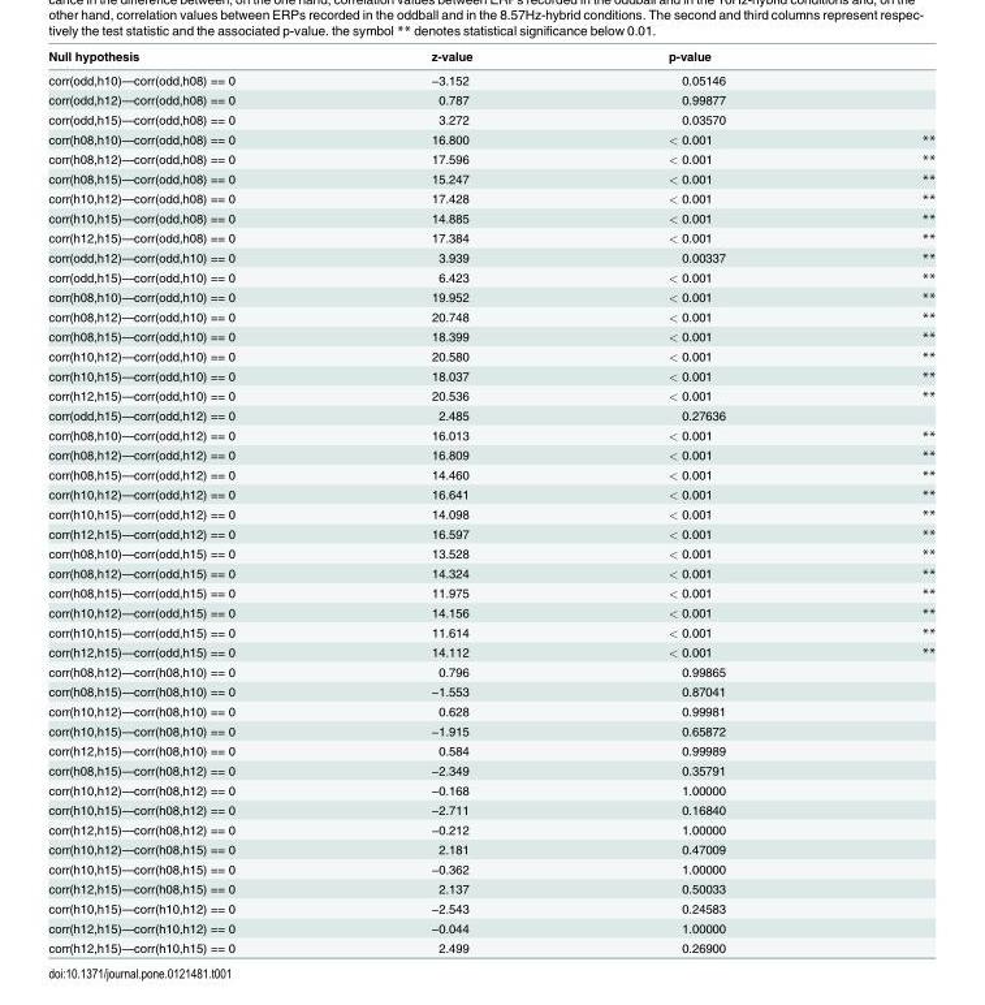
<table><thead><tr><td>Null hypothesis</td><td>z-value</td><td>p-value</td><td></td></tr></thead><tbody><tr><td>corr(odd,h10)—corr(odd,h08) == 0</td><td>−3.152</td><td>0.05146</td><td></td></tr><tr><td>corr(odd,h12)—corr(odd,h08) == 0</td><td>0.787</td><td>0.99877</td><td></td></tr><tr><td>corr(odd,h15)—corr(odd,h08) == 0</td><td>3.272</td><td>0.03570</td><td></td></tr><tr><td>corr(h08,h10)—corr(odd,h08) == 0</td><td>16.800</td><td>&lt; 0.001</td><td>**</td></tr><tr><td>corr(h08,h12)—corr(odd,h08) == 0</td><td>17.596</td><td>&lt; 0.001</td><td>**</td></tr><tr><td>corr(h08,h15)—corr(odd,h08) == 0</td><td>15.247</td><td>&lt; 0.001</td><td>**</td></tr><tr><td>corr(h10,h12)—corr(odd,h08) == 0</td><td>17.428</td><td>&lt; 0.001</td><td>**</td></tr><tr><td>corr(h10,h15)—corr(odd,h08) == 0</td><td>14.885</td><td>&lt; 0.001</td><td>**</td></tr><tr><td>corr(h12,h15)—corr(odd,h08) == 0</td><td>17.384</td><td>&lt; 0.001</td><td>**</td></tr><tr><td>corr(odd,h12)—corr(odd,h10) == 0</td><td>3.939</td><td>0.00337</td><td>**</td></tr><tr><td>corr(odd,h15)—corr(odd,h10) == 0</td><td>6.423</td><td>&lt; 0.001</td><td>**</td></tr><tr><td>corr(h08,h10)—corr(odd,h10) == 0</td><td>19.952</td><td>&lt; 0.001</td><td>**</td></tr><tr><td>corr(h08,h12)—corr(odd,h10) == 0</td><td>20.748</td><td>&lt; 0.001</td><td>**</td></tr><tr><td>corr(h08,h15)—corr(odd,h10) == 0</td><td>18.399</td><td>&lt; 0.001</td><td>**</td></tr><tr><td>corr(h10,h12)—corr(odd,h10) == 0</td><td>20.580</td><td>&lt; 0.001</td><td>**</td></tr><tr><td>corr(h10,h15)—corr(odd,h10) == 0</td><td>18.037</td><td>&lt; 0.001</td><td>**</td></tr><tr><td>corr(h12,h15)—corr(odd,h10) == 0</td><td>20.536</td><td>&lt; 0.001</td><td>**</td></tr><tr><td>corr(odd,h15)—corr(odd,h12) == 0</td><td>2.485</td><td>0.27636</td><td></td></tr><tr><td>corr(h08,h10)—corr(odd,h12) == 0</td><td>16.013</td><td>&lt; 0.001</td><td>**</td></tr><tr><td>corr(h08,h12)—corr(odd,h12) == 0</td><td>16.809</td><td>&lt; 0.001</td><td>**</td></tr><tr><td>corr(h08,h15)—corr(odd,h12) == 0</td><td>14.460</td><td>&lt; 0.001</td><td>**</td></tr><tr><td>corr(h10,h12)—corr(odd,h12) == 0</td><td>16.641</td><td>&lt; 0.001</td><td>**</td></tr><tr><td>corr(h10,h15)—corr(odd,h12) == 0</td><td>14.098</td><td>&lt; 0.001</td><td>**</td></tr><tr><td>corr(h12,h15)—corr(odd,h12) == 0</td><td>16.597</td><td>&lt; 0.001</td><td>**</td></tr><tr><td>corr(h08,h10)—corr(odd,h15) == 0</td><td>13.528</td><td>&lt; 0.001</td><td>**</td></tr><tr><td>corr(h08,h12)—corr(odd,h15) == 0</td><td>14.324</td><td>&lt; 0.001</td><td>**</td></tr><tr><td>corr(h08,h15)—corr(odd,h15) == 0</td><td>11.975</td><td>&lt; 0.001</td><td>**</td></tr><tr><td>corr(h10,h12)—corr(odd,h15) == 0</td><td>14.156</td><td>&lt; 0.001</td><td>**</td></tr><tr><td>corr(h10,h15)—corr(odd,h15) == 0</td><td>11.614</td><td>&lt; 0.001</td><td>**</td></tr><tr><td>corr(h12,h15)—corr(odd,h15) == 0</td><td>14.112</td><td>&lt; 0.001</td><td>**</td></tr><tr><td>corr(h08,h12)—corr(h08,h10) == 0</td><td>0.796</td><td>0.99865</td><td></td></tr><tr><td>corr(h08,h15)—corr(h08,h10) == 0</td><td>−1.553</td><td>0.87041</td><td></td></tr><tr><td>corr(h10,h12)—corr(h08,h10) == 0</td><td>0.628</td><td>0.99981</td><td></td></tr><tr><td>corr(h10,h15)—corr(h08,h10) == 0</td><td>−1.915</td><td>0.65872</td><td></td></tr><tr><td>corr(h12,h15)—corr(h08,h10) == 0</td><td>0.584</td><td>0.99989</td><td></td></tr><tr><td>corr(h08,h15)—corr(h08,h12) == 0</td><td>−2.349</td><td>0.35791</td><td></td></tr><tr><td>corr(h10,h12)—corr(h08,h12) == 0</td><td>−0.168</td><td>1.00000</td><td></td></tr><tr><td>corr(h10,h15)—corr(h08,h12) == 0</td><td>−2.711</td><td>0.16840</td><td></td></tr><tr><td>corr(h12,h15)—corr(h08,h12) == 0</td><td>−0.212</td><td>1.00000</td><td></td></tr><tr><td>corr(h10,h12)—corr(h08,h15) == 0</td><td>2.181</td><td>0.47009</td><td></td></tr><tr><td>corr(h10,h15)—corr(h08,h15) == 0</td><td>−0.362</td><td>1.00000</td><td></td></tr><tr><td>corr(h12,h15)—corr(h08,h15) == 0</td><td>2.137</td><td>0.50033</td><td></td></tr><tr><td>corr(h10,h15)—corr(h10,h12) == 0</td><td>−2.543</td><td>0.24583</td><td></td></tr><tr><td>corr(h12,h15)—corr(h10,h12) == 0</td><td>−0.044</td><td>1.00000</td><td></td></tr><tr><td>corr(h12,h15)—corr(h10,h15) == 0</td><td>2.499</td><td>0.26900</td><td></td></tr></tbody></table>